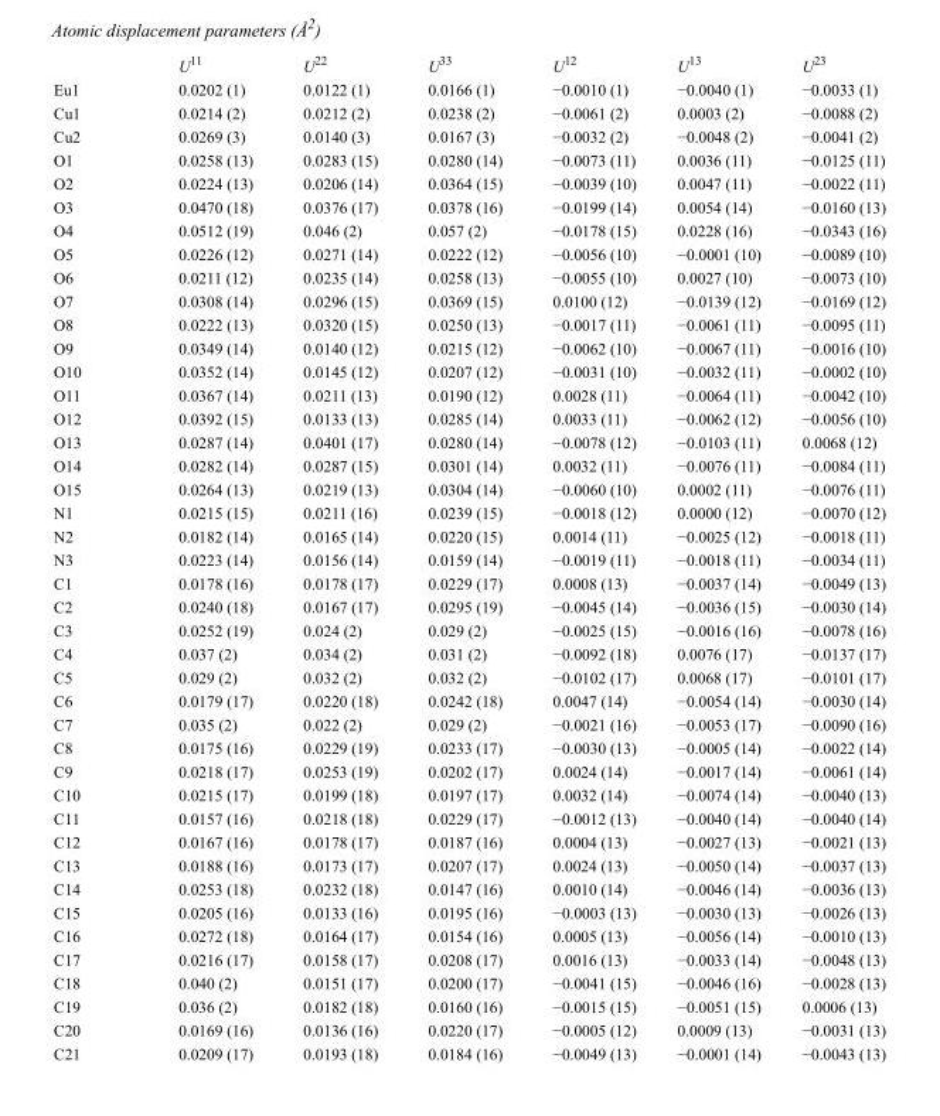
<table><thead><tr><td></td><td>U<sup>11</sup></td><td>U<sup>22</sup></td><td>U<sup>33</sup></td><td>U<sup>12</sup></td><td>U<sup>13</sup></td><td>U<sup>23</sup></td></tr></thead><tbody><tr><td>Eu1</td><td>0.0202 (1)</td><td>0.0122 (1)</td><td>0.0166 (1)</td><td>−0.0010 (1)</td><td>−0.0040 (1)</td><td>−0.0033 (1)</td></tr><tr><td>Cu1</td><td>0.0214 (2)</td><td>0.0212 (2)</td><td>0.0238 (2)</td><td>−0.0061 (2)</td><td>0.0003 (2)</td><td>−0.0088 (2)</td></tr><tr><td>Cu2</td><td>0.0269 (3)</td><td>0.0140 (3)</td><td>0.0167 (3)</td><td>−0.0032 (2)</td><td>−0.0048 (2)</td><td>−0.0041 (2)</td></tr><tr><td>O1</td><td>0.0258 (13)</td><td>0.0283 (15)</td><td>0.0280 (14)</td><td>−0.0073 (11)</td><td>0.0036 (11)</td><td>−0.0125 (11)</td></tr><tr><td>O2</td><td>0.0224 (13)</td><td>0.0206 (14)</td><td>0.0364 (15)</td><td>−0.0039 (10)</td><td>0.0047 (11)</td><td>−0.0022 (11)</td></tr><tr><td>O3</td><td>0.0470 (18)</td><td>0.0376 (17)</td><td>0.0378 (16)</td><td>−0.0199 (14)</td><td>0.0054 (14)</td><td>−0.0160 (13)</td></tr><tr><td>O4</td><td>0.0512 (19)</td><td>0.046 (2)</td><td>0.057 (2)</td><td>−0.0178 (15)</td><td>0.0228 (16)</td><td>−0.0343 (16)</td></tr><tr><td>O5</td><td>0.0226 (12)</td><td>0.0271 (14)</td><td>0.0222 (12)</td><td>−0.0056 (10)</td><td>−0.0001 (10)</td><td>−0.0089 (10)</td></tr><tr><td>O6</td><td>0.0211 (12)</td><td>0.0235 (14)</td><td>0.0258 (13)</td><td>−0.0055 (10)</td><td>0.0027 (10)</td><td>−0.0073 (10)</td></tr><tr><td>O7</td><td>0.0308 (14)</td><td>0.0296 (15)</td><td>0.0369 (15)</td><td>0.0100 (12)</td><td>−0.0139 (12)</td><td>−0.0169 (12)</td></tr><tr><td>O8</td><td>0.0222 (13)</td><td>0.0320 (15)</td><td>0.0250 (13)</td><td>−0.0017 (11)</td><td>−0.0061 (11)</td><td>−0.0095 (11)</td></tr><tr><td>O9</td><td>0.0349 (14)</td><td>0.0140 (12)</td><td>0.0215 (12)</td><td>−0.0062 (10)</td><td>−0.0067 (11)</td><td>−0.0016 (10)</td></tr><tr><td>O10</td><td>0.0352 (14)</td><td>0.0145 (12)</td><td>0.0207 (12)</td><td>−0.0031 (10)</td><td>−0.0032 (11)</td><td>−0.0002 (10)</td></tr><tr><td>O11</td><td>0.0367 (14)</td><td>0.0211 (13)</td><td>0.0190 (12)</td><td>0.0028 (11)</td><td>−0.0064 (11)</td><td>−0.0042 (10)</td></tr><tr><td>O12</td><td>0.0392 (15)</td><td>0.0133 (13)</td><td>0.0285 (14)</td><td>0.0033 (11)</td><td>−0.0062 (12)</td><td>−0.0056 (10)</td></tr><tr><td>O13</td><td>0.0287 (14)</td><td>0.0401 (17)</td><td>0.0280 (14)</td><td>−0.0078 (12)</td><td>−0.0103 (11)</td><td>0.0068 (12)</td></tr><tr><td>O14</td><td>0.0282 (14)</td><td>0.0287 (15)</td><td>0.0301 (14)</td><td>0.0032 (11)</td><td>−0.0076 (11)</td><td>−0.0084 (11)</td></tr><tr><td>O15</td><td>0.0264 (13)</td><td>0.0219 (13)</td><td>0.0304 (14)</td><td>−0.0060 (10)</td><td>0.0002 (11)</td><td>−0.0076 (11)</td></tr><tr><td>N1</td><td>0.0215 (15)</td><td>0.0211 (16)</td><td>0.0239 (15)</td><td>−0.0018 (12)</td><td>0.0000 (12)</td><td>−0.0070 (12)</td></tr><tr><td>N2</td><td>0.0182 (14)</td><td>0.0165 (14)</td><td>0.0220 (15)</td><td>0.0014 (11)</td><td>−0.0025 (12)</td><td>−0.0018 (11)</td></tr><tr><td>N3</td><td>0.0223 (14)</td><td>0.0156 (14)</td><td>0.0159 (14)</td><td>−0.0019 (11)</td><td>−0.0018 (11)</td><td>−0.0034 (11)</td></tr><tr><td>C1</td><td>0.0178 (16)</td><td>0.0178 (17)</td><td>0.0229 (17)</td><td>0.0008 (13)</td><td>−0.0037 (14)</td><td>−0.0049 (13)</td></tr><tr><td>C2</td><td>0.0240 (18)</td><td>0.0167 (17)</td><td>0.0295 (19)</td><td>−0.0045 (14)</td><td>−0.0036 (15)</td><td>−0.0030 (14)</td></tr><tr><td>C3</td><td>0.0252 (19)</td><td>0.024 (2)</td><td>0.029 (2)</td><td>−0.0025 (15)</td><td>−0.0016 (16)</td><td>−0.0078 (16)</td></tr><tr><td>C4</td><td>0.037 (2)</td><td>0.034 (2)</td><td>0.031 (2)</td><td>−0.0092 (18)</td><td>0.0076 (17)</td><td>−0.0137 (17)</td></tr><tr><td>C5</td><td>0.029 (2)</td><td>0.032 (2)</td><td>0.032 (2)</td><td>−0.0102 (17)</td><td>0.0068 (17)</td><td>−0.0101 (17)</td></tr><tr><td>C6</td><td>0.0179 (17)</td><td>0.0220 (18)</td><td>0.0242 (18)</td><td>0.0047 (14)</td><td>−0.0054 (14)</td><td>−0.0030 (14)</td></tr><tr><td>C7</td><td>0.035 (2)</td><td>0.022 (2)</td><td>0.029 (2)</td><td>−0.0021 (16)</td><td>−0.0053 (17)</td><td>−0.0090 (16)</td></tr><tr><td>C8</td><td>0.0175 (16)</td><td>0.0229 (19)</td><td>0.0233 (17)</td><td>−0.0030 (13)</td><td>−0.0005 (14)</td><td>−0.0022 (14)</td></tr><tr><td>C9</td><td>0.0218 (17)</td><td>0.0253 (19)</td><td>0.0202 (17)</td><td>0.0024 (14)</td><td>−0.0017 (14)</td><td>−0.0061 (14)</td></tr><tr><td>C10</td><td>0.0215 (17)</td><td>0.0199 (18)</td><td>0.0197 (17)</td><td>0.0032 (14)</td><td>−0.0074 (14)</td><td>−0.0040 (13)</td></tr><tr><td>C11</td><td>0.0157 (16)</td><td>0.0218 (18)</td><td>0.0229 (17)</td><td>−0.0012 (13)</td><td>−0.0040 (14)</td><td>−0.0040 (14)</td></tr><tr><td>C12</td><td>0.0167 (16)</td><td>0.0178 (17)</td><td>0.0187 (16)</td><td>0.0004 (13)</td><td>−0.0027 (13)</td><td>−0.0021 (13)</td></tr><tr><td>C13</td><td>0.0188 (16)</td><td>0.0173 (17)</td><td>0.0207 (17)</td><td>0.0024 (13)</td><td>−0.0050 (14)</td><td>−0.0037 (13)</td></tr><tr><td>C14</td><td>0.0253 (18)</td><td>0.0232 (18)</td><td>0.0147 (16)</td><td>0.0010 (14)</td><td>−0.0046 (14)</td><td>−0.0036 (13)</td></tr><tr><td>C15</td><td>0.0205 (16)</td><td>0.0133 (16)</td><td>0.0195 (16)</td><td>−0.0003 (13)</td><td>−0.0030 (13)</td><td>−0.0026 (13)</td></tr><tr><td>C16</td><td>0.0272 (18)</td><td>0.0164 (17)</td><td>0.0154 (16)</td><td>0.0005 (13)</td><td>−0.0056 (14)</td><td>−0.0010 (13)</td></tr><tr><td>C17</td><td>0.0216 (17)</td><td>0.0158 (17)</td><td>0.0208 (17)</td><td>0.0016 (13)</td><td>−0.0033 (14)</td><td>−0.0048 (13)</td></tr><tr><td>C18</td><td>0.040 (2)</td><td>0.0151 (17)</td><td>0.0200 (17)</td><td>−0.0041 (15)</td><td>−0.0046 (16)</td><td>−0.0028 (13)</td></tr><tr><td>C19</td><td>0.036 (2)</td><td>0.0182 (18)</td><td>0.0160 (16)</td><td>−0.0015 (15)</td><td>−0.0051 (15)</td><td>0.0006 (13)</td></tr><tr><td>C20</td><td>0.0169 (16)</td><td>0.0136 (16)</td><td>0.0220 (17)</td><td>−0.0005 (12)</td><td>0.0009 (13)</td><td>−0.0031 (13)</td></tr><tr><td>C21</td><td>0.0209 (17)</td><td>0.0193 (18)</td><td>0.0184 (16)</td><td>−0.0049 (13)</td><td>−0.0001 (14)</td><td>−0.0043 (13)</td></tr></tbody></table>